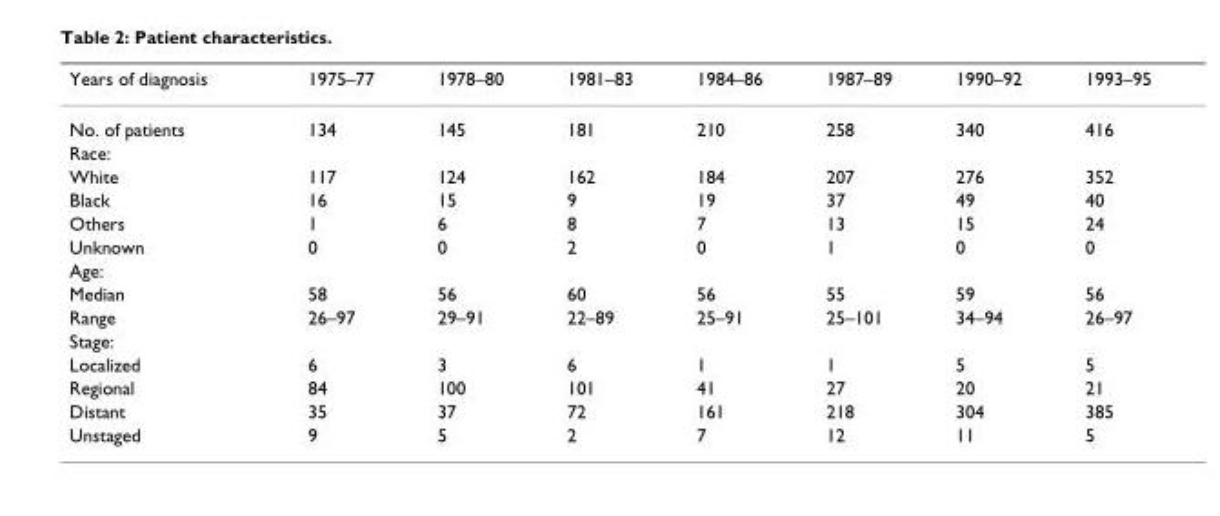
<table><thead><tr><td>Years of diagnosis</td><td>1975–77</td><td>1978–80</td><td>1981–83</td><td>1984–86</td><td>1987–89</td><td>1990–92</td><td>1993–95</td></tr></thead><tbody><tr><td>No. of patients</td><td>134</td><td>145</td><td>181</td><td>210</td><td>258</td><td>340</td><td>416</td></tr><tr><td colspan="8">Race:</td></tr><tr><td>White</td><td>117</td><td>124</td><td>162</td><td>184</td><td>207</td><td>276</td><td>352</td></tr><tr><td>Black</td><td>16</td><td>15</td><td>9</td><td>19</td><td>37</td><td>49</td><td>40</td></tr><tr><td>Others</td><td>1</td><td>6</td><td>8</td><td>7</td><td>13</td><td>15</td><td>24</td></tr><tr><td>Unknown</td><td>0</td><td>0</td><td>2</td><td>0</td><td>1</td><td>0</td><td>0</td></tr><tr><td colspan="8">Age:</td></tr><tr><td>Median</td><td>58</td><td>56</td><td>60</td><td>56</td><td>55</td><td>59</td><td>56</td></tr><tr><td>Range</td><td>26–97</td><td>29–91</td><td>22–89</td><td>25–91</td><td>25–101</td><td>34–94</td><td>26–97</td></tr><tr><td colspan="8">Stage:</td></tr><tr><td>Localized</td><td>6</td><td>3</td><td>6</td><td>1</td><td>1</td><td>5</td><td>5</td></tr><tr><td>Regional</td><td>84</td><td>100</td><td>101</td><td>41</td><td>27</td><td>20</td><td>21</td></tr><tr><td>Distant</td><td>35</td><td>37</td><td>72</td><td>161</td><td>218</td><td>304</td><td>385</td></tr><tr><td>Unstaged</td><td>9</td><td>5</td><td>2</td><td>7</td><td>12</td><td>11</td><td>5</td></tr></tbody></table>